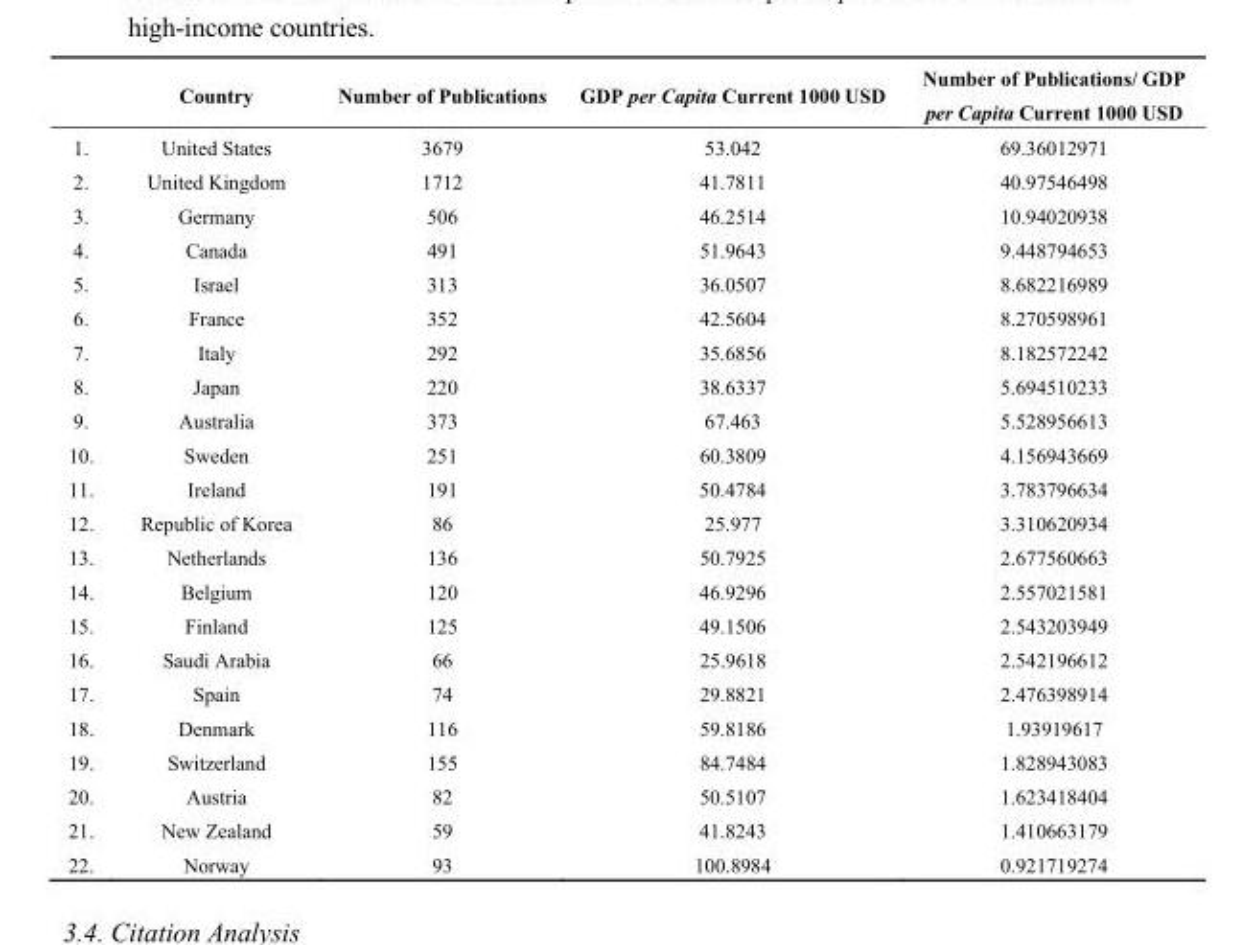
<table><thead><tr><td></td><td>Country</td><td>Number of Publications</td><td>GDP per Capita Current 1000 USD</td><td>Number of Publications/ GDP per Capita Current 1000 USD</td></tr></thead><tbody><tr><td>1.</td><td>United States</td><td>3679</td><td>53.042</td><td>69.36012971</td></tr><tr><td>2.</td><td>United Kingdom</td><td>1712</td><td>41.7811</td><td>40.97546498</td></tr><tr><td>3.</td><td>Germany</td><td>506</td><td>46.2514</td><td>10.94020938</td></tr><tr><td>4.</td><td>Canada</td><td>491</td><td>51.9643</td><td>9.448794653</td></tr><tr><td>5.</td><td>Israel</td><td>313</td><td>36.0507</td><td>8.682216989</td></tr><tr><td>6.</td><td>France</td><td>352</td><td>42.5604</td><td>8.270598961</td></tr><tr><td>7.</td><td>Italy</td><td>292</td><td>35.6856</td><td>8.182572242</td></tr><tr><td>8.</td><td>Japan</td><td>220</td><td>38.6337</td><td>5.694510233</td></tr><tr><td>9.</td><td>Australia</td><td>373</td><td>67.463</td><td>5.528956613</td></tr><tr><td>10.</td><td>Sweden</td><td>251</td><td>60.3809</td><td>4.156943669</td></tr><tr><td>11.</td><td>Ireland</td><td>191</td><td>50.4784</td><td>3.783796634</td></tr><tr><td>12.</td><td>Republic of Korea</td><td>86</td><td>25.977</td><td>3.310620934</td></tr><tr><td>13.</td><td>Netherlands</td><td>136</td><td>50.7925</td><td>2.677560663</td></tr><tr><td>14.</td><td>Belgium</td><td>120</td><td>46.9296</td><td>2.557021581</td></tr><tr><td>15.</td><td>Finland</td><td>125</td><td>49.1506</td><td>2.543203949</td></tr><tr><td>16.</td><td>Saudi Arabia</td><td>66</td><td>25.9618</td><td>2.542196612</td></tr><tr><td>17.</td><td>Spain</td><td>74</td><td>29.8821</td><td>2.476398914</td></tr><tr><td>18.</td><td>Denmark</td><td>116</td><td>59.8186</td><td>1.93919617</td></tr><tr><td>19.</td><td>Switzerland</td><td>155</td><td>84.7484</td><td>1.828943083</td></tr><tr><td>20.</td><td>Austria</td><td>82</td><td>50.5107</td><td>1.623418404</td></tr><tr><td>21.</td><td>New Zealand</td><td>59</td><td>41.8243</td><td>1.410663179</td></tr><tr><td>22.</td><td>Norway</td><td>93</td><td>100.8984</td><td>0.921719274</td></tr></tbody></table>